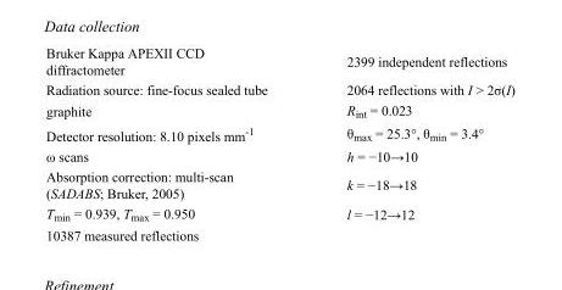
<table><tbody><tr><td>Bruker Kappa APEXII CCD diffractometer</td><td>2399 independent reflections</td></tr><tr><td>Radiation source: fine-focus sealed tube</td><td>2064 reflections with I &gt; 2σ(I)</td></tr><tr><td>graphite</td><td>R<sub>int</sub> = 0.023</td></tr><tr><td>Detector resolution: 8.10 pixels mm<sup>-1</sup></td><td>θ<sub>max</sub> = 25.3°, θ<sub>min</sub> = 3.4°</td></tr><tr><td>ω scans</td><td>h = −10→10</td></tr><tr><td>Absorption correction: multi-scan (SADABS; Bruker, 2005)</td><td>k = −18→18</td></tr><tr><td>T<sub>min</sub> = 0.939, T<sub>max</sub> = 0.950</td><td>l = −12→12</td></tr><tr><td>10387 measured reflections</td><td></td></tr></tbody></table>